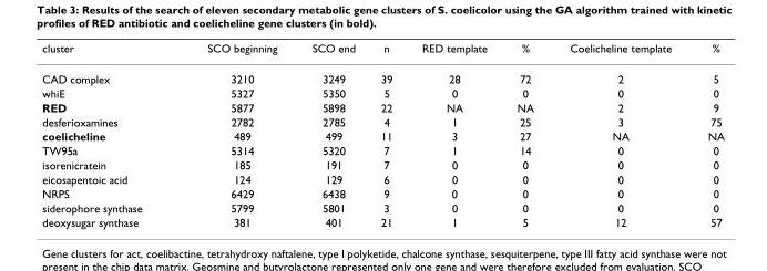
<table><thead><tr><td>cluster</td><td>SCO beginning</td><td>SCO end</td><td>n</td><td>RED template</td><td>%</td><td>Coelicheline template</td><td>%</td></tr></thead><tbody><tr><td>CAD complex</td><td>3210</td><td>3249</td><td>39</td><td>28</td><td>72</td><td>2</td><td>5</td></tr><tr><td>whiE</td><td>5327</td><td>5350</td><td>5</td><td>0</td><td>0</td><td>0</td><td>0</td></tr><tr><td>RED</td><td>5877</td><td>5898</td><td>22</td><td>NA</td><td>NA</td><td>2</td><td>9</td></tr><tr><td>desferioxamines</td><td>2782</td><td>2785</td><td>4</td><td>1</td><td>25</td><td>3</td><td>75</td></tr><tr><td>coelicheline</td><td>489</td><td>499</td><td>11</td><td>3</td><td>27</td><td>NA</td><td>NA</td></tr><tr><td>TW95a</td><td>5314</td><td>5320</td><td>7</td><td>1</td><td>14</td><td>0</td><td>0</td></tr><tr><td>isorenicratein</td><td>185</td><td>191</td><td>7</td><td>0</td><td>0</td><td>0</td><td>0</td></tr><tr><td>eicosapentoic acid</td><td>124</td><td>129</td><td>6</td><td>0</td><td>0</td><td>0</td><td>0</td></tr><tr><td>NRPS</td><td>6429</td><td>6438</td><td>9</td><td>0</td><td>0</td><td>0</td><td>0</td></tr><tr><td>siderophore synthase</td><td>5799</td><td>5801</td><td>3</td><td>0</td><td>0</td><td>0</td><td>0</td></tr><tr><td>deoxysugar synthase</td><td>381</td><td>401</td><td>21</td><td>1</td><td>5</td><td>12</td><td>57</td></tr></tbody></table>